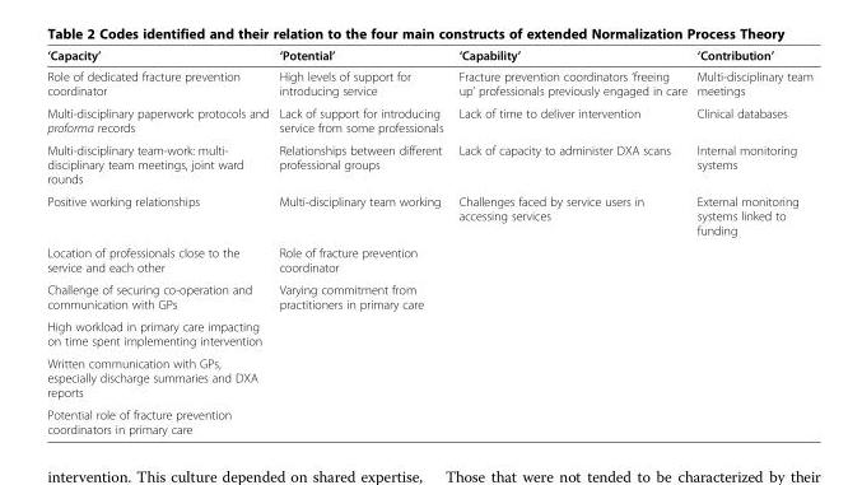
<table><thead><tr><td>‘Capacity’</td><td>‘Potential’</td><td>‘Capability’</td><td>‘Contribution’</td></tr></thead><tbody><tr><td>Role of dedicated fracture prevention coordinator</td><td>High levels of support for introducing service</td><td>Fracture prevention coordinators ‘freeing up’ professionals previously engaged in care</td><td>Multi-disciplinary team meetings</td></tr><tr><td>Multi-disciplinary paperwork: protocols and proforma records</td><td>Lack of support for introducing service from some professionals</td><td>Lack of time to deliver intervention</td><td>Clinical databases</td></tr><tr><td>Multi-disciplinary team-work: multi- disciplinary team meetings, joint ward rounds</td><td>Relationships between different professional groups</td><td>Lack of capacity to administer DXA scans</td><td>Internal monitoring systems</td></tr><tr><td>Positive working relationships</td><td>Multi-disciplinary team working</td><td>Challenges faced by service users in accessing services</td><td>External monitoring systems linked to funding</td></tr><tr><td>Location of professionals close to the service and each other</td><td>Role of fracture prevention coordinator</td><td></td><td></td></tr><tr><td>Challenge of securing co-operation and communication with GPs</td><td>Varying commitment from practitioners in primary care</td><td></td><td></td></tr><tr><td colspan="4">High workload in primary care impacting on time spent implementing intervention</td></tr><tr><td colspan="4">Written communication with GPs, especially discharge summaries and DXA reports</td></tr><tr><td>Potential role of fracture prevention coordinators in primary care</td><td></td><td></td><td></td></tr></tbody></table>